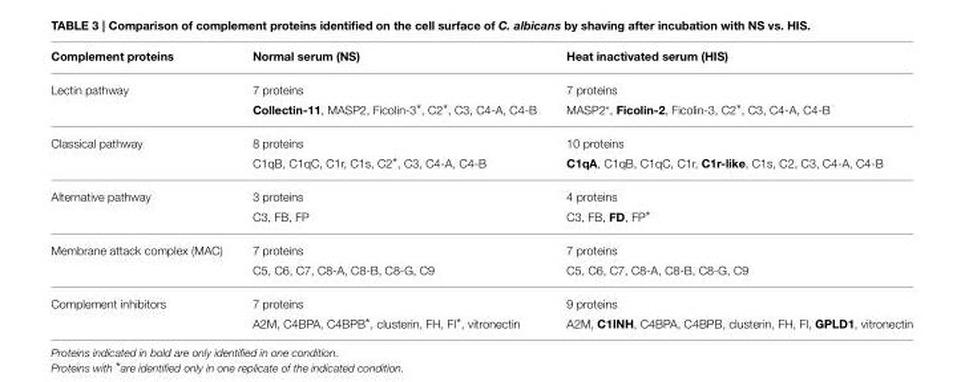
<table><thead><tr><td>Complement proteins</td><td>Normal serum (NS)</td><td>Heat inactivated serum (HIS)</td></tr></thead><tbody><tr><td rowspan="2">Lectin pathway</td><td>7 proteins</td><td>7 proteins</td></tr><tr><td>Collectin-11, MASP2, Ficolin-3*, C2*, C3, C4-A, C4-B</td><td>MASP2*, Ficolin-2, Ficolin-3, C2*, C3, C4-A, C4-B</td></tr><tr><td rowspan="2">Classical pathway</td><td>8 proteins</td><td>10 proteins</td></tr><tr><td>C1qB, C1qC, C1r, C1s, C2*, C3, C4-A, C4-B</td><td>C1qA, C1qB, C1qC, C1r, C1r-like, C1s, C2, C3, C4-A, C4-B</td></tr><tr><td rowspan="2">Alternative pathway</td><td>3 proteins</td><td>4 proteins</td></tr><tr><td>C3, FB, FP</td><td>C3, FB, FD, FP*</td></tr><tr><td rowspan="2">Membrane attack complex (MAC)</td><td>7 proteins</td><td>7 proteins</td></tr><tr><td>C5, C6, C7, C8-A, C8-B, C8-G, C9</td><td>C5, C6, C7, C8-A, C8-B, C8-G, C9</td></tr><tr><td rowspan="2">Complement inhibitors</td><td>7 proteins</td><td>9 proteins</td></tr><tr><td>A2M, C4BPA, C4BPB*, clusterin, FH, FI*, vitronectin</td><td>A2M, C1INH, C4BPA, C4BPB, clusterin, FH, FI, GPLD1, vitronectin</td></tr></tbody></table>